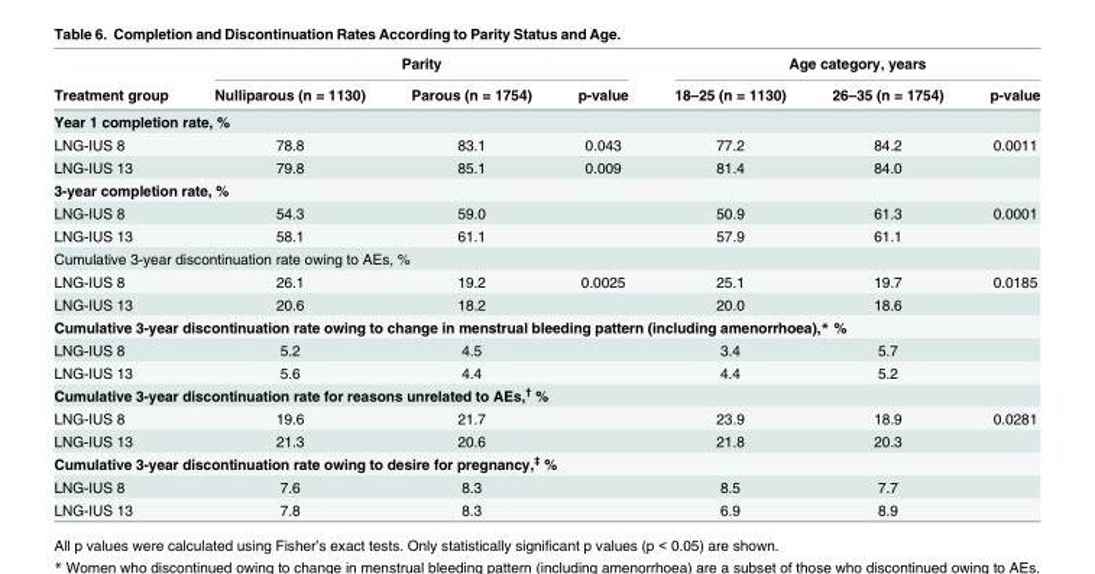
<table><thead><tr><td rowspan="2">Treatment group</td><td colspan="3">Parity</td><td colspan="3">Age category, years</td></tr><tr><td>Nulliparous (n = 1130)</td><td>Parous (n = 1754)</td><td>p-value</td><td>18–25 (n = 1130)</td><td>26–35 (n = 1754)</td><td>p-value</td></tr></thead><tbody><tr><td colspan="7">Year 1 completion rate, %</td></tr><tr><td>LNG-IUS 8</td><td>78.8</td><td>83.1</td><td>0.043</td><td>77.2</td><td>84.2</td><td>0.0011</td></tr><tr><td>LNG-IUS 13</td><td>79.8</td><td>85.1</td><td>0.009</td><td>81.4</td><td>84.0</td><td></td></tr><tr><td colspan="7">3-year completion rate, %</td></tr><tr><td>LNG-IUS 8</td><td>54.3</td><td>59.0</td><td></td><td>50.9</td><td>61.3</td><td>0.0001</td></tr><tr><td>LNG-IUS 13</td><td>58.1</td><td>61.1</td><td></td><td>57.9</td><td>61.1</td><td></td></tr><tr><td colspan="7">Cumulative 3-year discontinuation rate owing to AEs, %</td></tr><tr><td>LNG-IUS 8</td><td>26.1</td><td>19.2</td><td>0.0025</td><td>25.1</td><td>19.7</td><td>0.0185</td></tr><tr><td>LNG-IUS 13</td><td>20.6</td><td>18.2</td><td></td><td>20.0</td><td>18.6</td><td></td></tr><tr><td colspan="7">Cumulative 3-year discontinuation rate owing to change in menstrual bleeding pattern (including amenorrhoea),* %</td></tr><tr><td>LNG-IUS 8</td><td>5.2</td><td>4.5</td><td></td><td>3.4</td><td>5.7</td><td></td></tr><tr><td>LNG-IUS 13</td><td>5.6</td><td>4.4</td><td></td><td>4.4</td><td>5.2</td><td></td></tr><tr><td colspan="7">Cumulative 3-year discontinuation rate for reasons unrelated to AEs,<sup>†</sup> %</td></tr><tr><td>LNG-IUS 8</td><td>19.6</td><td>21.7</td><td></td><td>23.9</td><td>18.9</td><td>0.0281</td></tr><tr><td>LNG-IUS 13</td><td>21.3</td><td>20.6</td><td></td><td>21.8</td><td>20.3</td><td></td></tr><tr><td colspan="7">Cumulative 3-year discontinuation rate owing to desire for pregnancy,<sup>‡</sup> %</td></tr><tr><td>LNG-IUS 8</td><td>7.6</td><td>8.3</td><td></td><td>8.5</td><td>7.7</td><td></td></tr><tr><td>LNG-IUS 13</td><td>7.8</td><td>8.3</td><td></td><td>6.9</td><td>8.9</td><td></td></tr></tbody></table>